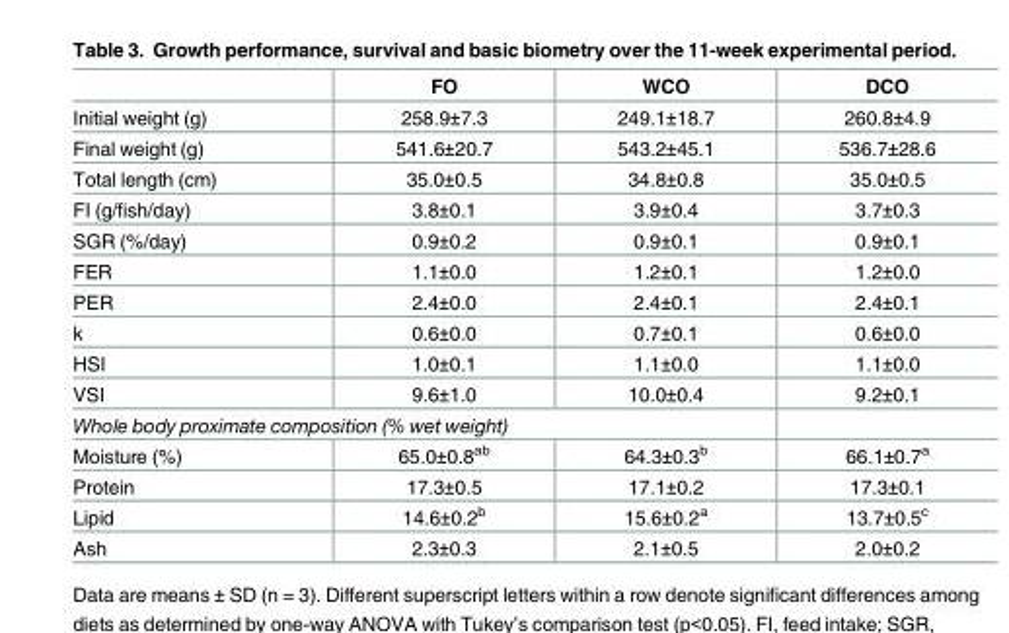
<table><thead><tr><td></td><td>FO</td><td>WCO</td><td>DCO</td></tr></thead><tbody><tr><td>Initial weight (g)</td><td>258.9±7.3</td><td>249.1±18.7</td><td>260.8±4.9</td></tr><tr><td>Final weight (g)</td><td>541.6±20.7</td><td>543.2±45.1</td><td>536.7±28.6</td></tr><tr><td>Total length (cm)</td><td>35.0±0.5</td><td>34.8±0.8</td><td>35.0±0.5</td></tr><tr><td>FI (g/fish/day)</td><td>3.8±0.1</td><td>3.9±0.4</td><td>3.7±0.3</td></tr><tr><td>SGR (%/day)</td><td>0.9±0.2</td><td>0.9±0.1</td><td>0.9±0.1</td></tr><tr><td>FER</td><td>1.1±0.0</td><td>1.2±0.1</td><td>1.2±0.0</td></tr><tr><td>PER</td><td>2.4±0.0</td><td>2.4±0.1</td><td>2.4±0.1</td></tr><tr><td>k</td><td>0.6±0.0</td><td>0.7±0.1</td><td>0.6±0.0</td></tr><tr><td>HSI</td><td>1.0±0.1</td><td>1.1±0.0</td><td>1.1±0.0</td></tr><tr><td>VSI</td><td>9.6±1.0</td><td>10.0±0.4</td><td>9.2±0.1</td></tr><tr><td colspan="4">Whole body proximate composition (% wet weight)</td></tr><tr><td>Moisture (%)</td><td>65.0±0.8<sup>ab</sup></td><td>64.3±0.3<sup>b</sup></td><td>66.1±0.7<sup>a</sup></td></tr><tr><td>Protein</td><td>17.3±0.5</td><td>17.1±0.2</td><td>17.3±0.1</td></tr><tr><td>Lipid</td><td>14.6±0.2<sup>b</sup></td><td>15.6±0.2<sup>a</sup></td><td>13.7±0.5<sup>c</sup></td></tr><tr><td>Ash</td><td>2.3±0.3</td><td>2.1±0.5</td><td>2.0±0.2</td></tr></tbody></table>